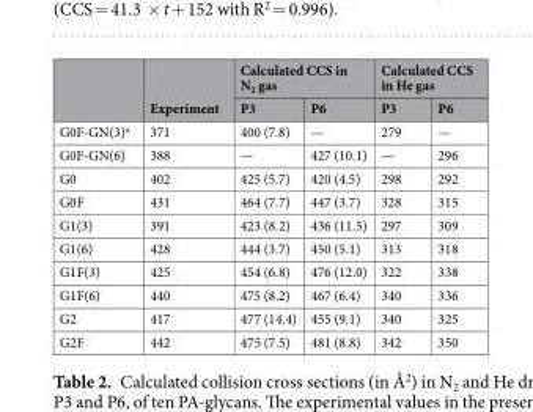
<table><thead><tr><td rowspan="2"></td><td rowspan="2">Experiment</td><td colspan="2">Calculated CCS in N<sub>2</sub> gas</td><td colspan="2">Calculated CCS in He gas</td></tr><tr><td>P3</td><td>P6</td><td>P3</td><td>P6</td></tr></thead><tbody><tr><td>G0F-GN(3)<sup>a</sup></td><td>371</td><td>400 (7.8)</td><td>—</td><td>279</td><td>—</td></tr><tr><td>G0F-GN(6)</td><td>388</td><td>—</td><td>427 (10.1)</td><td>—</td><td>296</td></tr><tr><td>G0</td><td>402</td><td>425 (5.7)</td><td>420 (4.5)</td><td>298</td><td>292</td></tr><tr><td>G0F</td><td>431</td><td>464 (7.7)</td><td>447 (3.7)</td><td>328</td><td>315</td></tr><tr><td>G1(3)</td><td>391</td><td>423 (8.2)</td><td>436 (11.5)</td><td>297</td><td>309</td></tr><tr><td>G1(6)</td><td>428</td><td>444 (3.7)</td><td>450 (5.1)</td><td>313</td><td>318</td></tr><tr><td>G1F(3)</td><td>425</td><td>454 (6.8)</td><td>476 (12.0)</td><td>322</td><td>338</td></tr><tr><td>G1F(6)</td><td>440</td><td>475 (8.2)</td><td>467 (6.4)</td><td>340</td><td>336</td></tr><tr><td>G2</td><td>417</td><td>477 (14.4)</td><td>455 (9.1)</td><td>340</td><td>325</td></tr><tr><td>G2F</td><td>442</td><td>475 (7.5)</td><td>481 (8.8)</td><td>342</td><td>350</td></tr></tbody></table>